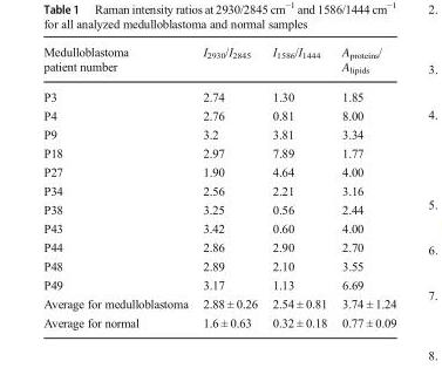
<table><thead><tr><td>Medulloblastoma patient number</td><td>I<sub>2930</sub>/I<sub>2845</sub></td><td>I<sub>1586</sub>/I<sub>1444</sub></td><td>A<sub>proteins</sub>/ A<sub>lipids</sub></td></tr></thead><tbody><tr><td>P3</td><td>2.74</td><td>1.30</td><td>1.85</td></tr><tr><td>P4</td><td>2.76</td><td>0.81</td><td>8.00</td></tr><tr><td>P9</td><td>3.2</td><td>3.81</td><td>3.34</td></tr><tr><td>P18</td><td>2.97</td><td>7.89</td><td>1.77</td></tr><tr><td>P27</td><td>1.90</td><td>4.64</td><td>4.00</td></tr><tr><td>P34</td><td>2.56</td><td>2.21</td><td>3.16</td></tr><tr><td>P38</td><td>3.25</td><td>0.56</td><td>2.44</td></tr><tr><td>P43</td><td>3.42</td><td>0.60</td><td>4.00</td></tr><tr><td>P44</td><td>2.86</td><td>2.90</td><td>2.70</td></tr><tr><td>P48</td><td>2.89</td><td>2.10</td><td>3.55</td></tr><tr><td>P49</td><td>3.17</td><td>1.13</td><td>6.69</td></tr><tr><td>Average for medulloblastoma</td><td>2.88 ± 0.26</td><td>2.54 ± 0.81</td><td>3.74 ± 1.24</td></tr><tr><td>Average for normal</td><td>1.6 ± 0.63</td><td>0.32 ± 0.18</td><td>0.77 ± 0.09</td></tr></tbody></table>